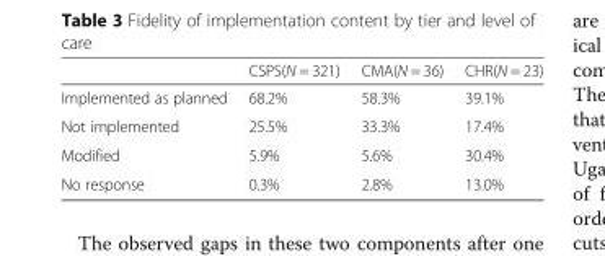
<table><thead><tr><td></td><td>CSPS(N = 321)</td><td>CMA(N = 36)</td><td>CHR(N = 23)</td></tr></thead><tbody><tr><td>Implemented as planned</td><td>68.2%</td><td>58.3%</td><td>39.1%</td></tr><tr><td>Not implemented</td><td>25.5%</td><td>33.3%</td><td>17.4%</td></tr><tr><td>Modified</td><td>5.9%</td><td>5.6%</td><td>30.4%</td></tr><tr><td>No response</td><td>0.3%</td><td>2.8%</td><td>13.0%</td></tr></tbody></table>